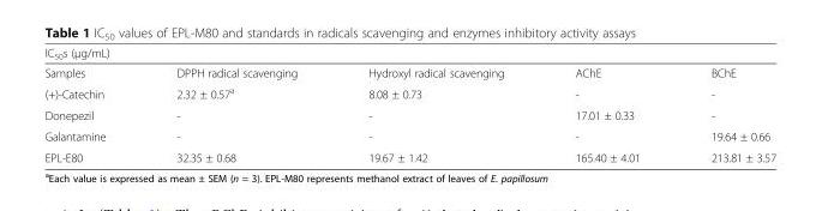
<table><thead><tr><td colspan="4">IC<sub>50</sub>s (μg/mL)</td><td rowspan="2">BChE</td></tr><tr><td>Samples</td><td>DPPH radical scavenging</td><td>Hydroxyl radical scavenging</td><td>AChE</td></tr></thead><tbody><tr><td>(+)-Catechin</td><td>2.32 ± 0.57<sup>a</sup></td><td>8.08 ± 0.73</td><td>-</td><td>-</td></tr><tr><td>Donepezil</td><td>-</td><td>-</td><td>17.01 ± 0.33</td><td>-</td></tr><tr><td>Galantamine</td><td>-</td><td>-</td><td>-</td><td>19.64 ± 0.66</td></tr><tr><td>EPL-E80</td><td>32.35 ± 0.68</td><td>19.67 ± 1.42</td><td>165.40 ± 4.01</td><td>213.81 ± 3.57</td></tr></tbody></table>